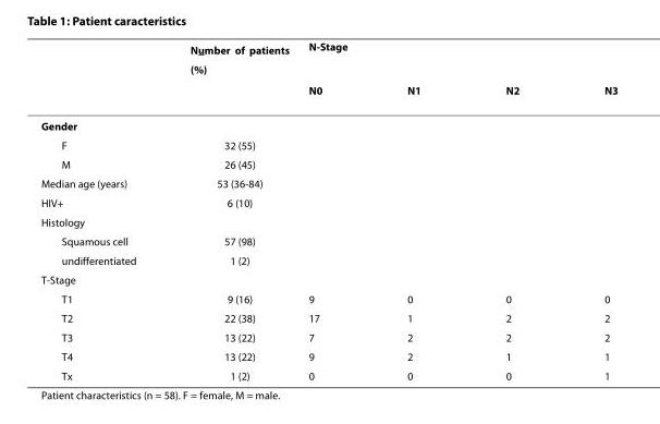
<table><thead><tr><td rowspan="2"></td><td rowspan="2">Number of patients (%)</td><td colspan="4">N-Stage</td></tr><tr><td>N0</td><td>N1</td><td>N2</td><td>N3</td></tr></thead><tbody><tr><td colspan="6">Gender</td></tr><tr><td>F</td><td>32 (55)</td><td></td><td></td><td></td><td></td></tr><tr><td>M</td><td>26 (45)</td><td></td><td></td><td></td><td></td></tr><tr><td>Median age (years)</td><td>53 (36-84)</td><td></td><td></td><td></td><td></td></tr><tr><td>HIV+</td><td>6 (10)</td><td></td><td></td><td></td><td></td></tr><tr><td colspan="6">Histology</td></tr><tr><td>Squamous cell</td><td>57 (98)</td><td></td><td></td><td></td><td></td></tr><tr><td>undifferentiated</td><td>1 (2)</td><td></td><td></td><td></td><td></td></tr><tr><td colspan="6">T-Stage</td></tr><tr><td>T1</td><td>9 (16)</td><td>9</td><td>0</td><td>0</td><td>0</td></tr><tr><td>T2</td><td>22 (38)</td><td>17</td><td>1</td><td>2</td><td>2</td></tr><tr><td>T3</td><td>13 (22)</td><td>7</td><td>2</td><td>2</td><td>2</td></tr><tr><td>T4</td><td>13 (22)</td><td>9</td><td>2</td><td>1</td><td>1</td></tr><tr><td>Tx</td><td>1 (2)</td><td>0</td><td>0</td><td>0</td><td>1</td></tr></tbody></table>